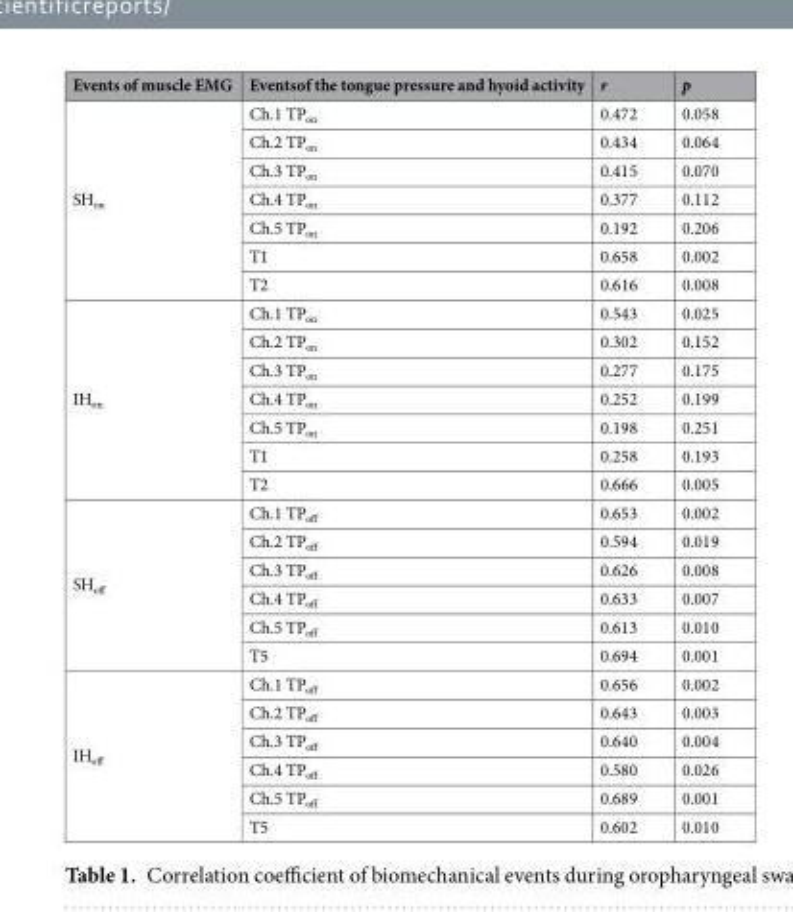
<table><thead><tr><td>Events of muscle EMG</td><td>Eventsof the tongue pressure and hyoid activity</td><td>r</td><td>p</td></tr></thead><tbody><tr><td rowspan="7">SH<sub>on</sub></td><td>Ch.1 TP<sub>on</sub></td><td>0.472</td><td>0.058</td></tr><tr><td>Ch.2 TP<sub>on</sub></td><td>0.434</td><td>0.064</td></tr><tr><td>Ch.3 TP<sub>on</sub></td><td>0.415</td><td>0.070</td></tr><tr><td>Ch.4 TP<sub>on</sub></td><td>0.377</td><td>0.112</td></tr><tr><td>Ch.5 TP<sub>on</sub></td><td>0.192</td><td>0.206</td></tr><tr><td>T1</td><td>0.658</td><td>0.002</td></tr><tr><td>T2</td><td>0.616</td><td>0.008</td></tr><tr><td rowspan="7">IH<sub>on</sub></td><td>Ch.1 TP<sub>on</sub></td><td>0.543</td><td>0.025</td></tr><tr><td>Ch.2 TP<sub>on</sub></td><td>0.302</td><td>0.152</td></tr><tr><td>Ch.3 TP<sub>on</sub></td><td>0.277</td><td>0.175</td></tr><tr><td>Ch.4 TP<sub>on</sub></td><td>0.252</td><td>0.199</td></tr><tr><td>Ch.5 TP<sub>on</sub></td><td>0.198</td><td>0.251</td></tr><tr><td>T1</td><td>0.258</td><td>0.193</td></tr><tr><td>T2</td><td>0.666</td><td>0.005</td></tr><tr><td rowspan="6">SH<sub>off</sub></td><td>Ch.1 TP<sub>off</sub></td><td>0.653</td><td>0.002</td></tr><tr><td>Ch.2 TP<sub>off</sub></td><td>0.594</td><td>0.019</td></tr><tr><td>Ch.3 TP<sub>off</sub></td><td>0.626</td><td>0.008</td></tr><tr><td>Ch.4 TP<sub>off</sub></td><td>0.633</td><td>0.007</td></tr><tr><td>Ch.5 TP<sub>off</sub></td><td>0.613</td><td>0.010</td></tr><tr><td>T5</td><td>0.694</td><td>0.001</td></tr><tr><td rowspan="6">IH<sub>off</sub></td><td>Ch.1 TP<sub>off</sub></td><td>0.656</td><td>0.002</td></tr><tr><td>Ch.2 TP<sub>off</sub></td><td>0.643</td><td>0.003</td></tr><tr><td>Ch.3 TP<sub>off</sub></td><td>0.640</td><td>0.004</td></tr><tr><td>Ch.4 TP<sub>off</sub></td><td>0.580</td><td>0.026</td></tr><tr><td>Ch.5 TP<sub>off</sub></td><td>0.689</td><td>0.001</td></tr><tr><td>T5</td><td>0.602</td><td>0.010</td></tr></tbody></table>